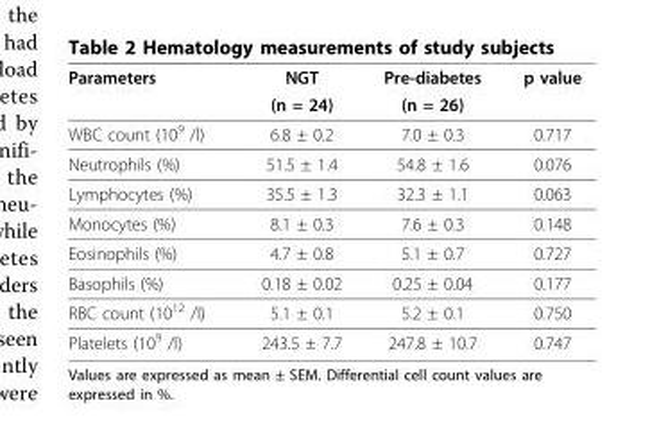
<table><thead><tr><td rowspan="2">Parameters</td><td rowspan="2">NGT (n = 24)</td><td rowspan="2">Pre-diabetes (n = 26)</td><td rowspan="2">p value</td></tr><tr></tr></thead><tbody><tr><td>WBC count (10<sup>9</sup> /l)</td><td>6.8 ± 0.2</td><td>7.0 ± 0.3</td><td>0.717</td></tr><tr><td>Neutrophils (%)</td><td>51.5 ± 1.4</td><td>54.8 ± 1.6</td><td>0.076</td></tr><tr><td>Lymphocytes (%)</td><td>35.5 ± 1.3</td><td>32.3 ± 1.1</td><td>0.063</td></tr><tr><td>Monocytes (%)</td><td>8.1 ± 0.3</td><td>7.6 ± 0.3</td><td>0.148</td></tr><tr><td>Eosinophils (%)</td><td>4.7 ± 0.8</td><td>5.1 ± 0.7</td><td>0.727</td></tr><tr><td>Basophils (%)</td><td>0.18 ± 0.02</td><td>0.25 ± 0.04</td><td>0.177</td></tr><tr><td>RBC count (10<sup>12</sup> /l)</td><td>5.1 ± 0.1</td><td>5.2 ± 0.1</td><td>0.750</td></tr><tr><td>Platelets (10<sup>9</sup> /l)</td><td>243.5 ± 7.7</td><td>247.8 ± 10.7</td><td>0.747</td></tr></tbody></table>